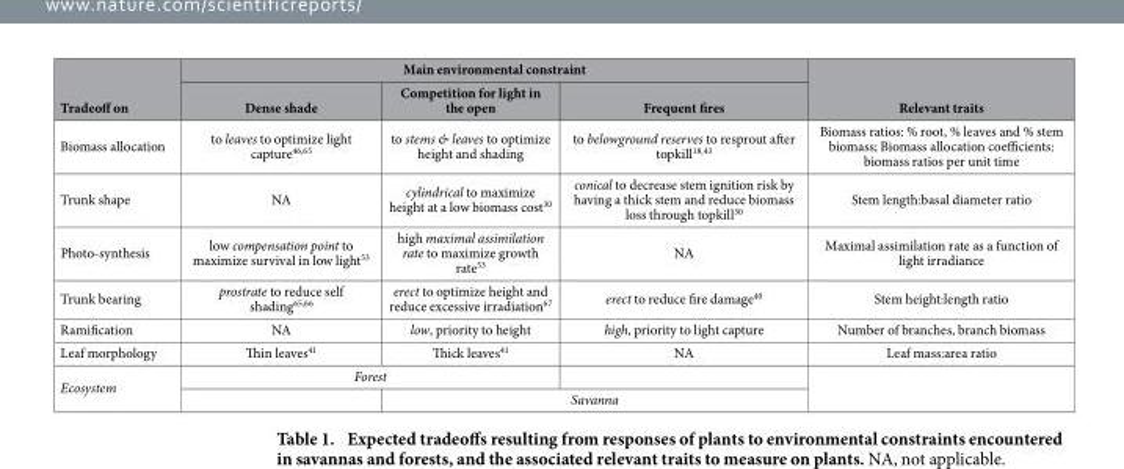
<table><thead><tr><td rowspan="2">Tradeoff on</td><td colspan="3">Main environmental constraint</td><td rowspan="2">Relevant traits</td></tr><tr><td>Dense shade</td><td>Competition for light in the open</td><td>Frequent fires</td></tr></thead><tbody><tr><td>Biomass allocation</td><td>to leaves to optimize light capture<sup>46</sup>,<sup>65</sup></td><td>to stems &amp; leaves to optimize height and shading</td><td>to belowground reserves to resprout after topkill<sup>18</sup>,<sup>43</sup></td><td>Biomass ratios: % root, % leaves and % stem biomass; Biomass allocation coefficients: biomass ratios per unit time</td></tr><tr><td>Trunk shape</td><td>NA</td><td>cylindrical to maximize height at a low biomass cost<sup>30</sup></td><td>conical to decrease stem ignition risk by having a thick stem and reduce biomass loss through topkill<sup>30</sup></td><td>Stem length:basal diameter ratio</td></tr><tr><td>Photo-synthesis</td><td>low compensation point to maximize survival in low light<sup>53</sup></td><td>high maximal assimilation rate to maximize growth rate<sup>53</sup></td><td>NA</td><td>Maximal assimilation rate as a function of light irradiance</td></tr><tr><td>Trunk bearing</td><td>prostrate to reduce self shading<sup>65</sup>,<sup>66</sup></td><td>erect to optimize height and reduce excessive irradiation<sup>67</sup></td><td>erect to reduce fire damage<sup>40</sup></td><td>Stem height:length ratio</td></tr><tr><td>Ramification</td><td>NA</td><td>low, priority to height</td><td>high, priority to light capture</td><td>Number of branches, branch biomass</td></tr><tr><td>Leaf morphology</td><td>Thin leaves<sup>41</sup></td><td>Thick leaves<sup>41</sup></td><td>NA</td><td>Leaf mass:area ratio</td></tr><tr><td rowspan="2">Ecosystem</td><td colspan="2">Forest</td><td></td><td rowspan="2"></td></tr><tr><td></td><td colspan="2">Savanna</td></tr></tbody></table>